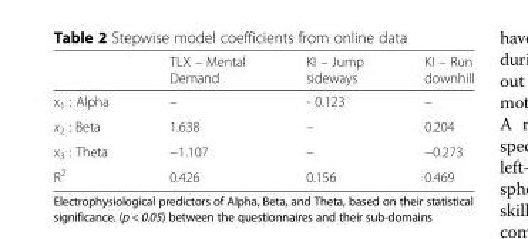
<table><thead><tr><td></td><td>TLX – Mental Demand</td><td>KI – Jump sideways</td><td>KI – Run downhill</td></tr></thead><tbody><tr><td>x<sub>1</sub> : Alpha</td><td>–</td><td>- 0.123</td><td>–</td></tr><tr><td>x<sub>2</sub> : Beta</td><td>1.638</td><td>–</td><td>0.204</td></tr><tr><td>x<sub>3</sub> : Theta</td><td>−1.107</td><td>–</td><td>−0.273</td></tr><tr><td>R<sup>2</sup></td><td>0.426</td><td>0.156</td><td>0.469</td></tr></tbody></table>